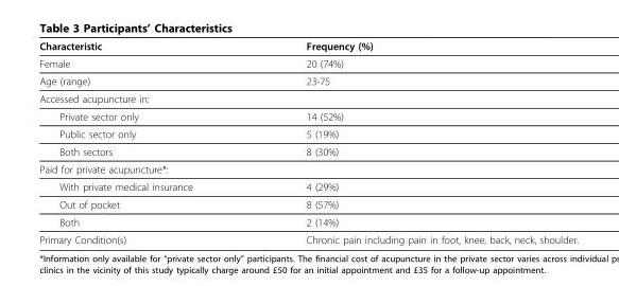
<table><thead><tr><td>Characteristic</td><td>Frequency (%)</td></tr></thead><tbody><tr><td>Female</td><td>20 (74%)</td></tr><tr><td>Age (range)</td><td>23-75</td></tr><tr><td colspan="2">Accessed acupuncture in:</td></tr><tr><td>Private sector only</td><td>14 (52%)</td></tr><tr><td>Public sector only</td><td>5 (19%)</td></tr><tr><td>Both sectors</td><td>8 (30%)</td></tr><tr><td colspan="2">Paid for private acupuncture*:</td></tr><tr><td>With private medical insurance</td><td>4 (29%)</td></tr><tr><td>Out of pocket</td><td>8 (57%)</td></tr><tr><td>Both</td><td>2 (14%)</td></tr><tr><td>Primary Condition(s)</td><td>Chronic pain including pain in foot, knee, back, neck, shoulder.</td></tr></tbody></table>